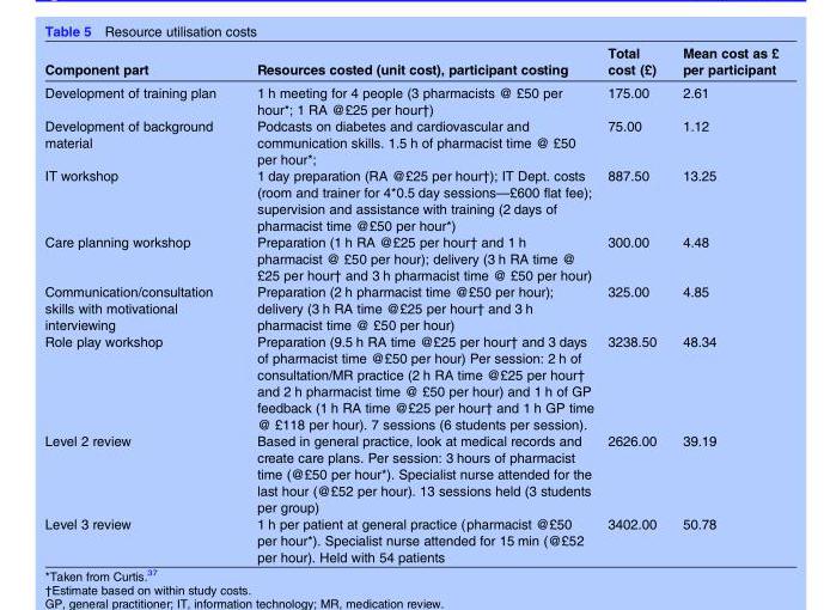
<table><thead><tr><td>Component part</td><td>Resources costed (unit cost), participant costing</td><td>Total cost (£)</td><td>Mean cost as £ per participant</td></tr></thead><tbody><tr><td>Development of training plan</td><td>1 h meeting for 4 people (3 pharmacists @ £50 per hour*; 1 RA @£25 per hour†)</td><td>175.00</td><td>2.61</td></tr><tr><td>Development of background material</td><td>Podcasts on diabetes and cardiovascular and communication skills. 1.5 h of pharmacist time @ £50 per hour*;</td><td>75.00</td><td>1.12</td></tr><tr><td>IT workshop</td><td>1 day preparation (RA @£25 per hour†); IT Dept. costs (room and trainer for 4*0.5 day sessions—£600 flat fee); supervision and assistance with training (2 days of pharmacist time @£50 per hour*)</td><td>887.50</td><td>13.25</td></tr><tr><td>Care planning workshop</td><td>Preparation (1 h RA @£25 per hour† and 1 h pharmacist @ £50 per hour); delivery (3 h RA time @ £25 per hour† and 3 h pharmacist time @ £50 per hour)</td><td>300.00</td><td>4.48</td></tr><tr><td>Communication/consultation skills with motivational interviewing</td><td>Preparation (2 h pharmacist time @£50 per hour); delivery (3 h RA time @£25 per hour† and 3 h pharmacist time @ £50 per hour)</td><td>325.00</td><td>4.85</td></tr><tr><td>Role play workshop</td><td>Preparation (9.5 h RA time @£25 per hour† and 3 days of pharmacist time @£50 per hour) Per session: 2 h of consultation/MR practice (2 h RA time @£25 per hour† and 2 h pharmacist time @ £50 per hour) and 1 h of GP feedback (1 h RA time @£25 per hour† and 1 h GP time @ £118 per hour). 7 sessions (6 students per session).</td><td>3238.50</td><td>48.34</td></tr><tr><td>Level 2 review</td><td>Based in general practice, look at medical records and create care plans. Per session: 3 hours of pharmacist time (@£50 per hour*). Specialist nurse attended for the last hour (@£52 per hour). 13 sessions held (3 students per group)</td><td>2626.00</td><td>39.19</td></tr><tr><td>Level 3 review</td><td>1 h per patient at general practice (pharmacist @£50 per hour*). Specialist nurse attended for 15 min (@£52 per hour). Held with 54 patients</td><td>3402.00</td><td>50.78</td></tr></tbody></table>